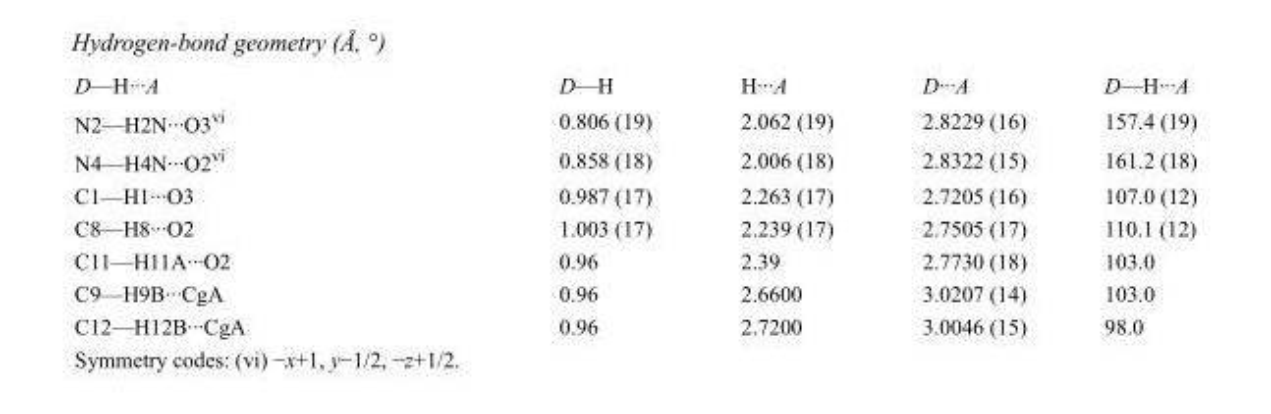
<table><tbody><tr><td>D—H···A</td><td>D—H</td><td>H···A</td><td>D···A</td><td>D—H···A</td></tr><tr><td>N2—H2N···O3<sup>vi</sup></td><td>0.806 (19)</td><td>2.062 (19)</td><td>2.8229 (16)</td><td>157.4 (19)</td></tr><tr><td>N4—H4N···O2<sup>vi</sup></td><td>0.858 (18)</td><td>2.006 (18)</td><td>2.8322 (15)</td><td>161.2 (18)</td></tr><tr><td>C1—H1···O3</td><td>0.987 (17)</td><td>2.263 (17)</td><td>2.7205 (16)</td><td>107.0 (12)</td></tr><tr><td>C8—H8···O2</td><td>1.003 (17)</td><td>2.239 (17)</td><td>2.7505 (17)</td><td>110.1 (12)</td></tr><tr><td>C11—H11A···O2</td><td>0.96</td><td>2.39</td><td>2.7730 (18)</td><td>103.0</td></tr><tr><td>C9—H9B···CgA</td><td>0.96</td><td>2.6600</td><td>3.0207 (14)</td><td>103.0</td></tr><tr><td>C12—H12B···CgA</td><td>0.96</td><td>2.7200</td><td>3.0046 (15)</td><td>98.0</td></tr></tbody></table>